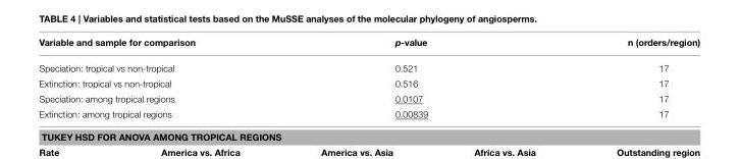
<table><thead><tr><td>Variable and sample for comparison</td><td>p-value</td><td>n (orders/region)</td></tr></thead><tbody><tr><td>Speciation: tropical vs non-tropical</td><td>0.521</td><td>17</td></tr><tr><td>Extinction: tropical vs non-tropical</td><td>0.516</td><td>17</td></tr><tr><td>Speciation: among tropical regions</td><td>0.0107</td><td>17</td></tr><tr><td>Extinction: among tropical regions</td><td>0.00839</td><td>17</td></tr></tbody></table>